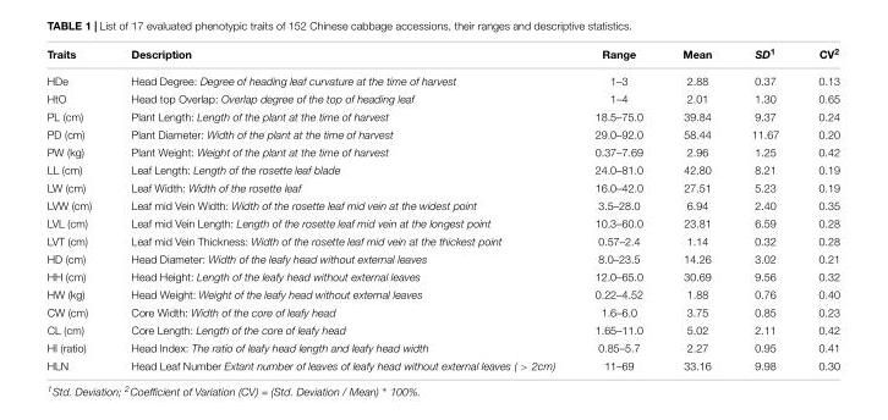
<table><thead><tr><td>Traits</td><td>Description</td><td>Range</td><td>Mean</td><td>SD<sup>1</sup></td><td>CV<sup>2</sup></td></tr></thead><tbody><tr><td>HDe</td><td>Head Degree: Degree of heading leaf curvature at the time of harvest</td><td>1–3</td><td>2.88</td><td>0.37</td><td>0.13</td></tr><tr><td>HtO</td><td>Head top Overlap: Overlap degree of the top of heading leaf</td><td>1–4</td><td>2.01</td><td>1.30</td><td>0.65</td></tr><tr><td>PL (cm)</td><td>Plant Length: Length of the plant at the time of harvest</td><td>18.5–75.0</td><td>39.84</td><td>9.37</td><td>0.24</td></tr><tr><td>PD (cm)</td><td>Plant Diameter: Width of the plant at the time of harvest</td><td>29.0–92.0</td><td>58.44</td><td>11.67</td><td>0.20</td></tr><tr><td>PW (kg)</td><td>Plant Weight: Weight of the plant at the time of harvest</td><td>0.37–7.69</td><td>2.96</td><td>1.25</td><td>0.42</td></tr><tr><td>LL (cm)</td><td>Leaf Length: Length of the rosette leaf blade</td><td>24.0–81.0</td><td>42.80</td><td>8.21</td><td>0.19</td></tr><tr><td>LW (cm)</td><td>Leaf Width: Width of the rosette leaf</td><td>16.0–42.0</td><td>27.51</td><td>5.23</td><td>0.19</td></tr><tr><td>LVW (cm)</td><td>Leaf mid Vein Width: Width of the rosette leaf mid vein at the widest point</td><td>3.5–28.0</td><td>6.94</td><td>2.40</td><td>0.35</td></tr><tr><td>LVL (cm)</td><td>Leaf mid Vein Length: Length of the rosette leaf mid vein at the longest point</td><td>10.3–60.0</td><td>23.81</td><td>6.59</td><td>0.28</td></tr><tr><td>LVT (cm)</td><td>Leaf mid Vein Thickness: Width of the rosette leaf mid vein at the thickest point</td><td>0.57–2.4</td><td>1.14</td><td>0.32</td><td>0.28</td></tr><tr><td>HD (cm)</td><td>Head Diameter: Width of the leafy head without external leaves</td><td>8.0–23.5</td><td>14.26</td><td>3.02</td><td>0.21</td></tr><tr><td>HH (cm)</td><td>Head Height: Length of the leafy head without external leaves</td><td>12.0–65.0</td><td>30.69</td><td>9.56</td><td>0.32</td></tr><tr><td>HW (kg)</td><td>Head Weight: Weight of the leafy head without external leaves</td><td>0.22–4.52</td><td>1.88</td><td>0.76</td><td>0.40</td></tr><tr><td>CW (cm)</td><td>Core Width: Width of the core of leafy head</td><td>1.6–6.0</td><td>3.75</td><td>0.85</td><td>0.23</td></tr><tr><td>CL (cm)</td><td>Core Length: Length of the core of leafy head</td><td>1.65–11.0</td><td>5.02</td><td>2.11</td><td>0.42</td></tr><tr><td>HI (ratio)</td><td>Head Index: The ratio of leafy head length and leafy head width</td><td>0.85–5.7</td><td>2.27</td><td>0.95</td><td>0.41</td></tr><tr><td>HLN</td><td>Head Leaf Number Extant number of leaves of leafy head without external leaves ( &gt; 2cm)</td><td>11–69</td><td>33.16</td><td>9.98</td><td>0.30</td></tr></tbody></table>